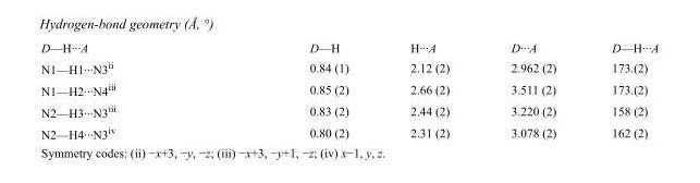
<table><tbody><tr><td>D—H···A</td><td>D—H</td><td>H···A</td><td>D···A</td><td>D—H···A</td></tr><tr><td>N1—H1···N3<sup>ii</sup></td><td>0.84 (1)</td><td>2.12 (2)</td><td>2.962 (2)</td><td>173.(2)</td></tr><tr><td>N1—H2···N4<sup>iii</sup></td><td>0.85 (2)</td><td>2.66 (2)</td><td>3.511 (2)</td><td>173.(2)</td></tr><tr><td>N2—H3···N3<sup>iii</sup></td><td>0.83 (2)</td><td>2.44 (2)</td><td>3.220 (2)</td><td>158 (2)</td></tr><tr><td>N2—H4···N3<sup>iv</sup></td><td>0.80 (2)</td><td>2.31 (2)</td><td>3.078 (2)</td><td>162 (2)</td></tr></tbody></table>